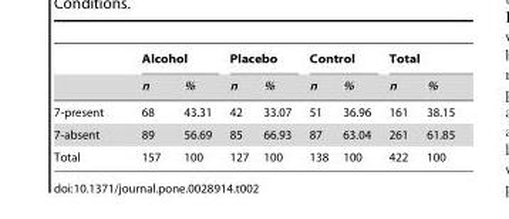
<table><thead><tr><td rowspan="2"></td><td colspan="2">Alcohol</td><td colspan="2">Placebo</td><td colspan="2">Control</td><td colspan="2">Total</td></tr><tr><td>n</td><td>%</td><td>n</td><td>%</td><td>n</td><td>%</td><td>n</td><td>%</td></tr></thead><tbody><tr><td>7-present</td><td>68</td><td>43.31</td><td>42</td><td>33.07</td><td>51</td><td>36.96</td><td>161</td><td>38.15</td></tr><tr><td>7-absent</td><td>89</td><td>56.69</td><td>85</td><td>66.93</td><td>87</td><td>63.04</td><td>261</td><td>61.85</td></tr><tr><td>Total</td><td>157</td><td>100</td><td>127</td><td>100</td><td>138</td><td>100</td><td>422</td><td>100</td></tr></tbody></table>